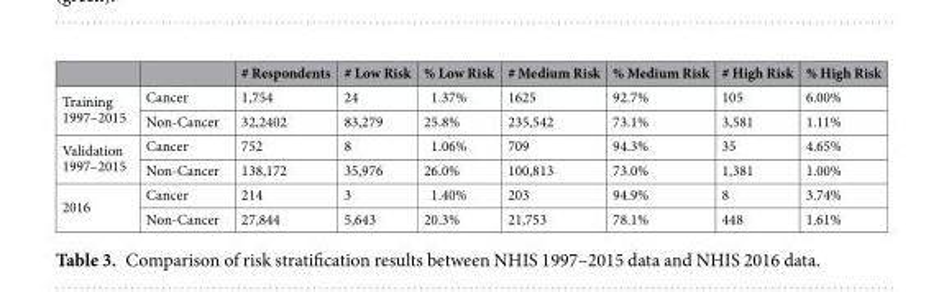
<table><thead><tr><td></td><td></td><td># Respondents</td><td># Low Risk</td><td>% Low Risk</td><td># Medium Risk</td><td>% Medium Risk</td><td># High Risk</td><td>% High Risk</td></tr></thead><tbody><tr><td rowspan="2">Training 1997–2015</td><td>Cancer</td><td>1,754</td><td>24</td><td>1.37%</td><td>1625</td><td>92.7%</td><td>105</td><td>6.00%</td></tr><tr><td>Non-Cancer</td><td>32,2402</td><td>83,279</td><td>25.8%</td><td>235,542</td><td>73.1%</td><td>3,581</td><td>1.11%</td></tr><tr><td rowspan="2">Validation 1997–2015</td><td>Cancer</td><td>752</td><td>8</td><td>1.06%</td><td>709</td><td>94.3%</td><td>35</td><td>4.65%</td></tr><tr><td>Non-Cancer</td><td>138,172</td><td>35,976</td><td>26.0%</td><td>100,813</td><td>73.0%</td><td>1,381</td><td>1.00%</td></tr><tr><td rowspan="2">2016</td><td>Cancer</td><td>214</td><td>3</td><td>1.40%</td><td>203</td><td>94.9%</td><td>8</td><td>3.74%</td></tr><tr><td>Non-Cancer</td><td>27,844</td><td>5,643</td><td>20.3%</td><td>21,753</td><td>78.1%</td><td>448</td><td>1.61%</td></tr></tbody></table>